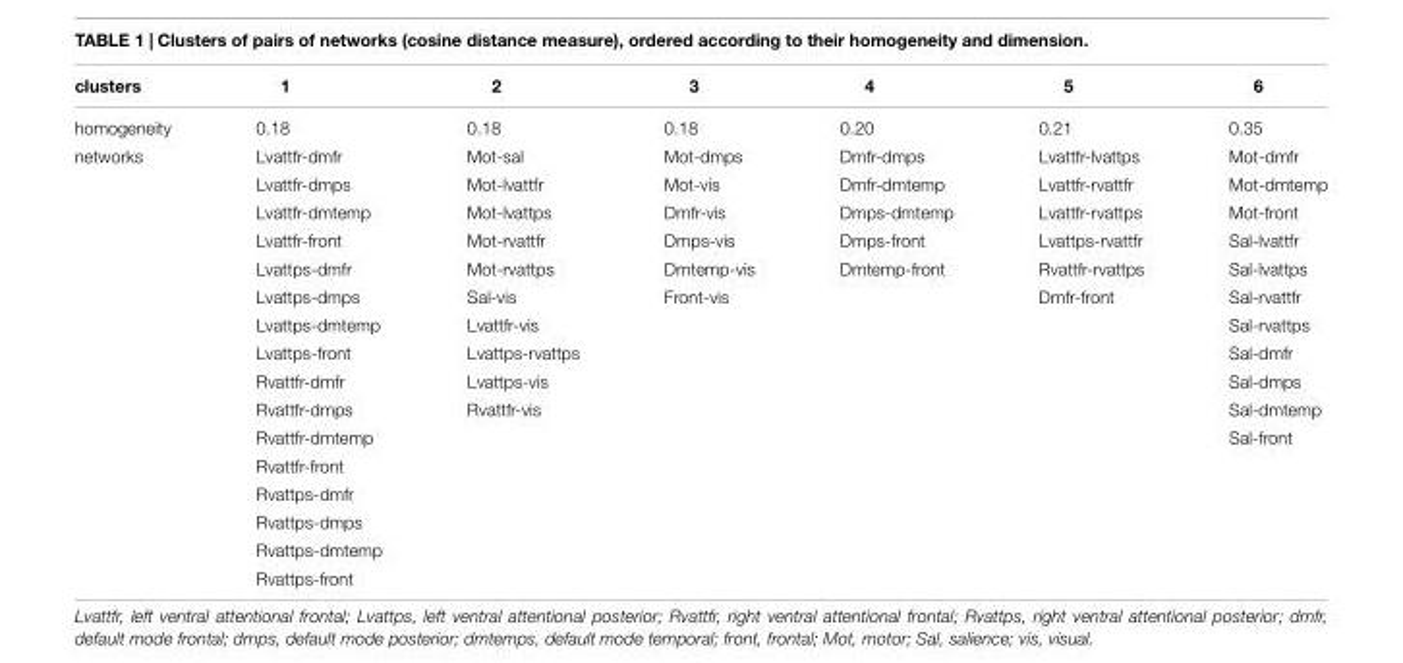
<table><thead><tr><td>clusters</td><td>1</td><td>2</td><td>3</td><td>4</td><td>5</td><td>6</td></tr></thead><tbody><tr><td>homogeneity</td><td>0.18</td><td>0.18</td><td>0.18</td><td>0.20</td><td>0.21</td><td>0.35</td></tr><tr><td rowspan="16">networks</td><td>Lvattfr-dmfr</td><td>Mot-sal</td><td>Mot-dmps</td><td>Dmfr-dmps</td><td>Lvattfr-lvattps</td><td>Mot-dmfr</td></tr><tr><td>Lvattfr-dmps</td><td>Mot-lvattfr</td><td>Mot-vis</td><td>Dmfr-dmtemp</td><td>Lvattfr-rvattfr</td><td>Mot-dmtemp</td></tr><tr><td>Lvattfr-dmtemp</td><td>Mot-lvattps</td><td>Dmfr-vis</td><td>Dmps-dmtemp</td><td>Lvattfr-rvattps</td><td>Mot-front</td></tr><tr><td>Lvattfr-front</td><td>Mot-rvattfr</td><td>Dmps-vis</td><td>Dmps-front</td><td>Lvattps-rvattfr</td><td>Sal-lvattfr</td></tr><tr><td>Lvattps-dmfr</td><td>Mot-rvattps</td><td>Dmtemp-vis</td><td>Dmtemp-front</td><td>Rvattfr-rvattps</td><td>Sal-lvattps</td></tr><tr><td>Lvattps-dmps</td><td>Sal-vis</td><td>Front-vis</td><td></td><td>Dmfr-front</td><td>Sal-rvattfr</td></tr><tr><td>Lvattps-dmtemp</td><td>Lvattfr-vis</td><td></td><td></td><td></td><td>Sal-rvattps</td></tr><tr><td>Lvattps-front</td><td>Lvattps-rvattps</td><td></td><td></td><td></td><td>Sal-dmfr</td></tr><tr><td>Rvattfr-dmfr</td><td>Lvattps-vis</td><td></td><td></td><td></td><td>Sal-dmps</td></tr><tr><td>Rvattfr-dmps</td><td>Rvattfr-vis</td><td></td><td></td><td></td><td>Sal-dmtemp</td></tr><tr><td>Rvattfr-dmtemp</td><td></td><td></td><td></td><td></td><td>Sal-front</td></tr><tr><td>Rvattfr-front</td><td></td><td></td><td></td><td></td><td></td></tr><tr><td>Rvattps-dmfr</td><td></td><td></td><td></td><td></td><td></td></tr><tr><td>Rvattps-dmps</td><td></td><td></td><td></td><td></td><td></td></tr><tr><td>Rvattps-dmtemp</td><td></td><td></td><td></td><td></td><td></td></tr><tr><td>Rvattps-front</td><td></td><td></td><td></td><td></td><td></td></tr></tbody></table>